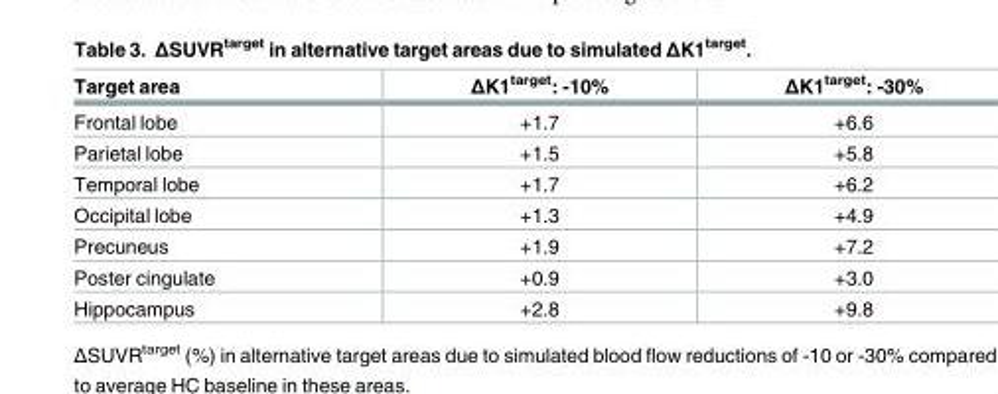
<table><thead><tr><td>Target area</td><td>ΔK1<sup>target</sup>: -10%</td><td>ΔK1<sup>target</sup>: -30%</td></tr></thead><tbody><tr><td>Frontal lobe</td><td>+1.7</td><td>+6.6</td></tr><tr><td>Parietal lobe</td><td>+1.5</td><td>+5.8</td></tr><tr><td>Temporal lobe</td><td>+1.7</td><td>+6.2</td></tr><tr><td>Occipital lobe</td><td>+1.3</td><td>+4.9</td></tr><tr><td>Precuneus</td><td>+1.9</td><td>+7.2</td></tr><tr><td>Poster cingulate</td><td>+0.9</td><td>+3.0</td></tr><tr><td>Hippocampus</td><td>+2.8</td><td>+9.8</td></tr></tbody></table>